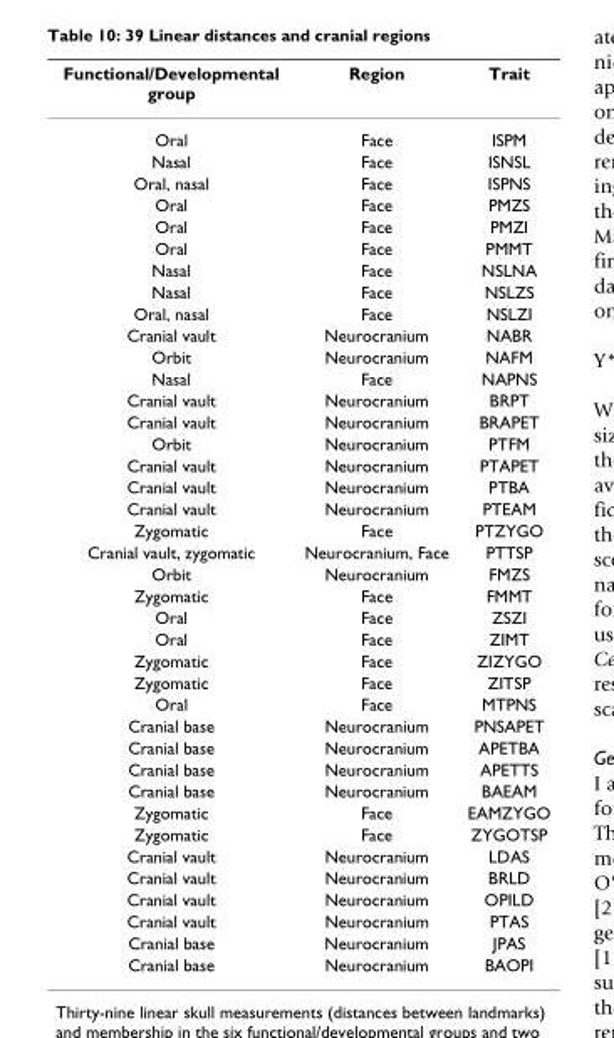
<table><thead><tr><td>Functional/Developmental group</td><td>Region</td><td>Trait</td></tr></thead><tbody><tr><td>Oral</td><td>Face</td><td>ISPM</td></tr><tr><td>Nasal</td><td>Face</td><td>ISNSL</td></tr><tr><td>Oral, nasal</td><td>Face</td><td>ISPNS</td></tr><tr><td>Oral</td><td>Face</td><td>PMZS</td></tr><tr><td>Oral</td><td>Face</td><td>PMZI</td></tr><tr><td>Oral</td><td>Face</td><td>PMMT</td></tr><tr><td>Nasal</td><td>Face</td><td>NSLNA</td></tr><tr><td>Nasal</td><td>Face</td><td>NSLZS</td></tr><tr><td>Oral, nasal</td><td>Face</td><td>NSLZI</td></tr><tr><td>Cranial vault</td><td>Neurocranium</td><td>NABR</td></tr><tr><td>Orbit</td><td>Neurocranium</td><td>NAFM</td></tr><tr><td>Nasal</td><td>Face</td><td>NAPNS</td></tr><tr><td>Cranial vault</td><td>Neurocranium</td><td>BRPT</td></tr><tr><td>Cranial vault</td><td>Neurocranium</td><td>BRAPET</td></tr><tr><td>Orbit</td><td>Neurocranium</td><td>PTFM</td></tr><tr><td>Cranial vault</td><td>Neurocranium</td><td>PTAPET</td></tr><tr><td>Cranial vault</td><td>Neurocranium</td><td>PTBA</td></tr><tr><td>Cranial vault</td><td>Neurocranium</td><td>PTEAM</td></tr><tr><td>Zygomatic</td><td>Face</td><td>PTZYGO</td></tr><tr><td>Cranial vault, zygomatic</td><td>Neurocranium, Face</td><td>PTTSP</td></tr><tr><td>Orbit</td><td>Neurocranium</td><td>FMZS</td></tr><tr><td>Zygomatic</td><td>Face</td><td>FMMT</td></tr><tr><td>Oral</td><td>Face</td><td>ZSZI</td></tr><tr><td>Oral</td><td>Face</td><td>ZIMT</td></tr><tr><td>Zygomatic</td><td>Face</td><td>ZIZYGO</td></tr><tr><td>Zygomatic</td><td>Face</td><td>ZITSP</td></tr><tr><td>Oral</td><td>Face</td><td>MTPNS</td></tr><tr><td>Cranial base</td><td>Neurocranium</td><td>PNSAPET</td></tr><tr><td>Cranial base</td><td>Neurocranium</td><td>APETBA</td></tr><tr><td>Cranial base</td><td>Neurocranium</td><td>APETTS</td></tr><tr><td>Cranial base</td><td>Neurocranium</td><td>BAEAM</td></tr><tr><td>Zygomatic</td><td>Face</td><td>EAMZYGO</td></tr><tr><td>Zygomatic</td><td>Face</td><td>ZYGOTSP</td></tr><tr><td>Cranial vault</td><td>Neurocranium</td><td>LDAS</td></tr><tr><td>Cranial vault</td><td>Neurocranium</td><td>BRLD</td></tr><tr><td>Cranial vault</td><td>Neurocranium</td><td>OPILD</td></tr><tr><td>Cranial vault</td><td>Neurocranium</td><td>PTAS</td></tr><tr><td>Cranial base</td><td>Neurocranium</td><td>JPAS</td></tr><tr><td>Cranial base</td><td>Neurocranium</td><td>BAOPI</td></tr></tbody></table>